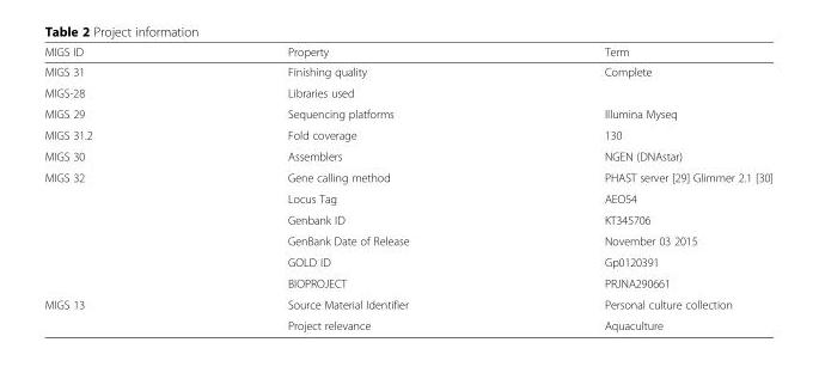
<table><thead><tr><td>MIGS ID</td><td>Property</td><td>Term</td></tr></thead><tbody><tr><td>MIGS 31</td><td>Finishing quality</td><td>Complete</td></tr><tr><td>MIGS-28</td><td>Libraries used</td><td></td></tr><tr><td>MIGS 29</td><td>Sequencing platforms</td><td>Illumina Myseq</td></tr><tr><td>MIGS 31.2</td><td>Fold coverage</td><td>130</td></tr><tr><td>MIGS 30</td><td>Assemblers</td><td>NGEN (DNAstar)</td></tr><tr><td rowspan="6">MIGS 32</td><td>Gene calling method</td><td>PHAST server [29] Glimmer 2.1 [30]</td></tr><tr><td>Locus Tag</td><td>AEO54</td></tr><tr><td>Genbank ID</td><td>KT345706</td></tr><tr><td>GenBank Date of Release</td><td>November 03 2015</td></tr><tr><td>GOLD ID</td><td>Gp0120391</td></tr><tr><td>BIOPROJECT</td><td>PRJNA290661</td></tr><tr><td rowspan="2">MIGS 13</td><td>Source Material Identifier</td><td>Personal culture collection</td></tr><tr><td>Project relevance</td><td>Aquaculture</td></tr></tbody></table>